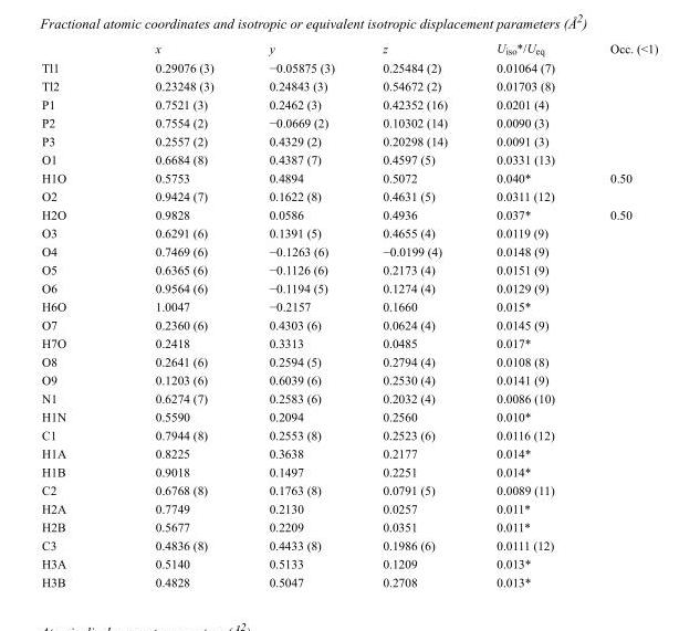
<table><thead><tr><td></td><td>x</td><td>y</td><td>z</td><td>U<sub>iso</sub>*/U<sub>eq</sub></td><td>Occ. (&lt;1)</td></tr></thead><tbody><tr><td>Tl1</td><td>0.29076 (3)</td><td>−0.05875 (3)</td><td>0.25484 (2)</td><td>0.01064 (7)</td><td></td></tr><tr><td>Tl2</td><td>0.23248 (3)</td><td>0.24843 (3)</td><td>0.54672 (2)</td><td>0.01703 (8)</td><td></td></tr><tr><td>P1</td><td>0.7521 (3)</td><td>0.2462 (3)</td><td>0.42352 (16)</td><td>0.0201 (4)</td><td></td></tr><tr><td>P2</td><td>0.7554 (2)</td><td>−0.0669 (2)</td><td>0.10302 (14)</td><td>0.0090 (3)</td><td></td></tr><tr><td>P3</td><td>0.2557 (2)</td><td>0.4329 (2)</td><td>0.20298 (14)</td><td>0.0091 (3)</td><td></td></tr><tr><td>O1</td><td>0.6684 (8)</td><td>0.4387 (7)</td><td>0.4597 (5)</td><td>0.0331 (13)</td><td></td></tr><tr><td>H1O</td><td>0.5753</td><td>0.4894</td><td>0.5072</td><td>0.040*</td><td>0.50</td></tr><tr><td>O2</td><td>0.9424 (7)</td><td>0.1622 (8)</td><td>0.4631 (5)</td><td>0.0311 (12)</td><td></td></tr><tr><td>H2O</td><td>0.9828</td><td>0.0586</td><td>0.4936</td><td>0.037*</td><td>0.50</td></tr><tr><td>O3</td><td>0.6291 (6)</td><td>0.1391 (5)</td><td>0.4655 (4)</td><td>0.0119 (9)</td><td></td></tr><tr><td>O4</td><td>0.7469 (6)</td><td>−0.1263 (6)</td><td>−0.0199 (4)</td><td>0.0148 (9)</td><td></td></tr><tr><td>O5</td><td>0.6365 (6)</td><td>−0.1126 (6)</td><td>0.2173 (4)</td><td>0.0151 (9)</td><td></td></tr><tr><td>O6</td><td>0.9564 (6)</td><td>−0.1194 (5)</td><td>0.1274 (4)</td><td>0.0129 (9)</td><td></td></tr><tr><td>H6O</td><td>1.0047</td><td>−0.2157</td><td>0.1660</td><td>0.015*</td><td></td></tr><tr><td>O7</td><td>0.2360 (6)</td><td>0.4303 (6)</td><td>0.0624 (4)</td><td>0.0145 (9)</td><td></td></tr><tr><td>H7O</td><td>0.2418</td><td>0.3313</td><td>0.0485</td><td>0.017*</td><td></td></tr><tr><td>O8</td><td>0.2641 (6)</td><td>0.2594 (5)</td><td>0.2794 (4)</td><td>0.0108 (8)</td><td></td></tr><tr><td>O9</td><td>0.1203 (6)</td><td>0.6039 (6)</td><td>0.2530 (4)</td><td>0.0141 (9)</td><td></td></tr><tr><td>N1</td><td>0.6274 (7)</td><td>0.2583 (6)</td><td>0.2032 (4)</td><td>0.0086 (10)</td><td></td></tr><tr><td>H1N</td><td>0.5590</td><td>0.2094</td><td>0.2560</td><td>0.010*</td><td></td></tr><tr><td>C1</td><td>0.7944 (8)</td><td>0.2553 (8)</td><td>0.2523 (6)</td><td>0.0116 (12)</td><td></td></tr><tr><td>H1A</td><td>0.8225</td><td>0.3638</td><td>0.2177</td><td>0.014*</td><td></td></tr><tr><td>H1B</td><td>0.9018</td><td>0.1497</td><td>0.2251</td><td>0.014*</td><td></td></tr><tr><td>C2</td><td>0.6768 (8)</td><td>0.1763 (8)</td><td>0.0791 (5)</td><td>0.0089 (11)</td><td></td></tr><tr><td>H2A</td><td>0.7749</td><td>0.2130</td><td>0.0257</td><td>0.011*</td><td></td></tr><tr><td>H2B</td><td>0.5677</td><td>0.2209</td><td>0.0351</td><td>0.011*</td><td></td></tr><tr><td>C3</td><td>0.4836 (8)</td><td>0.4433 (8)</td><td>0.1986 (6)</td><td>0.0111 (12)</td><td></td></tr><tr><td>H3A</td><td>0.5140</td><td>0.5133</td><td>0.1209</td><td>0.013*</td><td></td></tr><tr><td>H3B</td><td>0.4828</td><td>0.5047</td><td>0.2708</td><td>0.013*</td><td></td></tr></tbody></table>